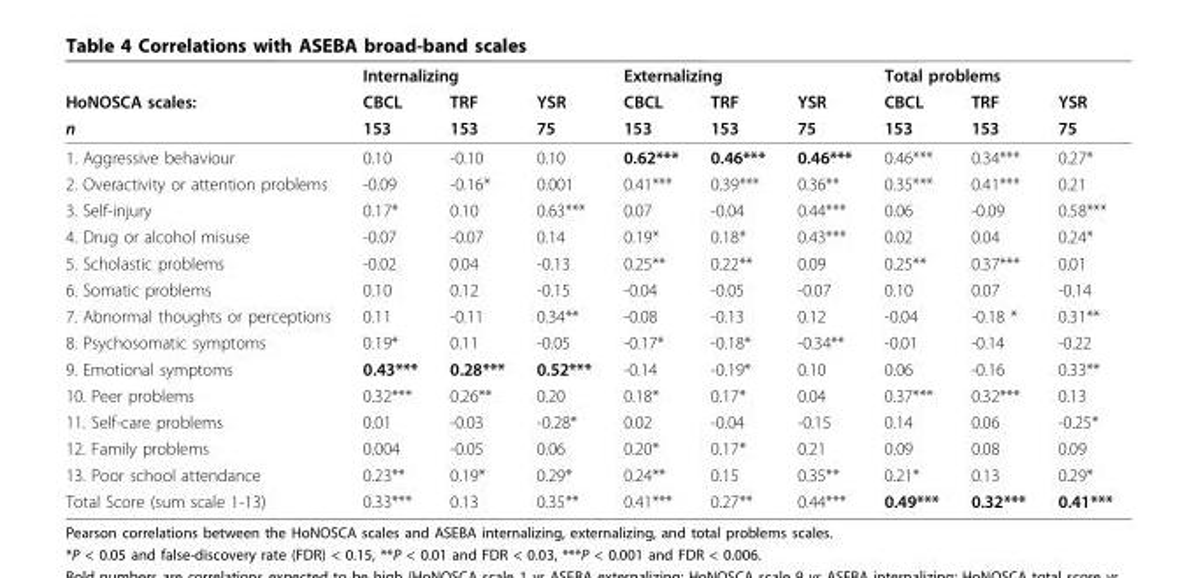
<table><thead><tr><td rowspan="3">HoNOSCA scales: n</td><td colspan="3">Internalizing</td><td colspan="3">Externalizing</td><td colspan="3">Total problems</td></tr><tr><td rowspan="2">CBCL 153</td><td rowspan="2">TRF 153</td><td rowspan="2">YSR 75</td><td rowspan="2">CBCL 153</td><td rowspan="2">TRF 153</td><td rowspan="2">YSR 75</td><td rowspan="2">CBCL 153</td><td rowspan="2">TRF 153</td><td rowspan="2">YSR 75</td></tr><tr></tr></thead><tbody><tr><td>1. Aggressive behaviour</td><td>0.10</td><td>-0.10</td><td>0.10</td><td>0.62***</td><td>0.46***</td><td>0.46***</td><td>0.46***</td><td>0.34***</td><td>0.27*</td></tr><tr><td>2. Overactivity or attention problems</td><td>-0.09</td><td>-0.16*</td><td>0.001</td><td>0.41***</td><td>0.39***</td><td>0.36**</td><td>0.35***</td><td>0.41***</td><td>0.21</td></tr><tr><td>3. Self-injury</td><td>0.17*</td><td>0.10</td><td>0.63***</td><td>0.07</td><td>-0.04</td><td>0.44***</td><td>0.06</td><td>-0.09</td><td>0.58***</td></tr><tr><td>4. Drug or alcohol misuse</td><td>-0.07</td><td>-0.07</td><td>0.14</td><td>0.19*</td><td>0.18*</td><td>0.43***</td><td>0.02</td><td>0.04</td><td>0.24*</td></tr><tr><td>5. Scholastic problems</td><td>-0.02</td><td>0.04</td><td>-0.13</td><td>0.25**</td><td>0.22**</td><td>0.09</td><td>0.25**</td><td>0.37***</td><td>0.01</td></tr><tr><td>6. Somatic problems</td><td>0.10</td><td>0.12</td><td>-0.15</td><td>-0.04</td><td>-0.05</td><td>-0.07</td><td>0.10</td><td>0.07</td><td>-0.14</td></tr><tr><td>7. Abnormal thoughts or perceptions</td><td>0.11</td><td>-0.11</td><td>0.34**</td><td>-0.08</td><td>-0.13</td><td>0.12</td><td>-0.04</td><td>-0.18 *</td><td>0.31**</td></tr><tr><td>8. Psychosomatic symptoms</td><td>0.19*</td><td>0.11</td><td>-0.05</td><td>-0.17*</td><td>-0.18*</td><td>-0.34**</td><td>-0.01</td><td>-0.14</td><td>-0.22</td></tr><tr><td>9. Emotional symptoms</td><td>0.43***</td><td>0.28***</td><td>0.52***</td><td>-0.14</td><td>-0.19*</td><td>0.10</td><td>0.06</td><td>-0.16</td><td>0.33**</td></tr><tr><td>10. Peer problems</td><td>0.32***</td><td>0.26**</td><td>0.20</td><td>0.18*</td><td>0.17*</td><td>0.04</td><td>0.37***</td><td>0.32***</td><td>0.13</td></tr><tr><td>11. Self-care problems</td><td>0.01</td><td>-0.03</td><td>-0.28*</td><td>0.02</td><td>-0.04</td><td>-0.15</td><td>0.14</td><td>0.06</td><td>-0.25*</td></tr><tr><td>12. Family problems</td><td>0.004</td><td>-0.05</td><td>0.06</td><td>0.20*</td><td>0.17*</td><td>0.21</td><td>0.09</td><td>0.08</td><td>0.09</td></tr><tr><td>13. Poor school attendance</td><td>0.23**</td><td>0.19*</td><td>0.29*</td><td>0.24**</td><td>0.15</td><td>0.35**</td><td>0.21*</td><td>0.13</td><td>0.29*</td></tr><tr><td>Total Score (sum scale 1-13)</td><td>0.33***</td><td>0.13</td><td>0.35**</td><td>0.41***</td><td>0.27**</td><td>0.44***</td><td>0.49***</td><td>0.32***</td><td>0.41***</td></tr></tbody></table>